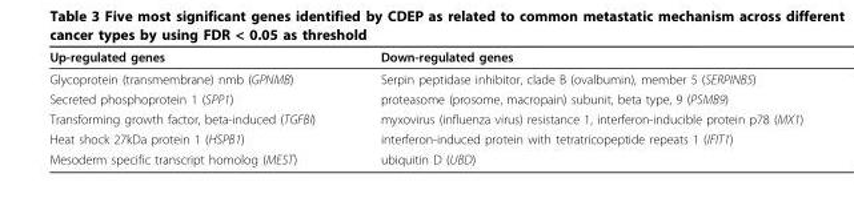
<table><thead><tr><td>Up-regulated genes</td><td>Down-regulated genes</td></tr></thead><tbody><tr><td>Glycoprotein (transmembrane) nmb (GPNMB)</td><td>Serpin peptidase inhibitor, clade B (ovalbumin), member 5 (SERPINB5)</td></tr><tr><td>Secreted phosphoprotein 1 (SPP1)</td><td>proteasome (prosome, macropain) subunit, beta type, 9 (PSMB9)</td></tr><tr><td>Transforming growth factor, beta-induced (TGFBI)</td><td>myxovirus (influenza virus) resistance 1, interferon-inducible protein p78 (MX1)</td></tr><tr><td>Heat shock 27kDa protein 1 (HSPB1)</td><td>interferon-induced protein with tetratricopeptide repeats 1 (IFIT1)</td></tr><tr><td>Mesoderm specific transcript homolog (MEST)</td><td>ubiquitin D (UBD)</td></tr></tbody></table>